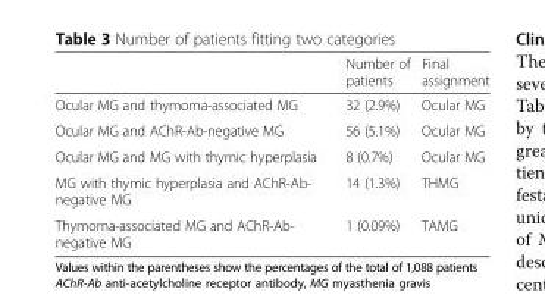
<table><thead><tr><td></td><td>Number of patients</td><td>Final assignment</td></tr></thead><tbody><tr><td>Ocular MG and thymoma-associated MG</td><td>32 (2.9%)</td><td>Ocular MG</td></tr><tr><td>Ocular MG and AChR-Ab-negative MG</td><td>56 (5.1%)</td><td>Ocular MG</td></tr><tr><td>Ocular MG and MG with thymic hyperplasia</td><td>8 (0.7%)</td><td>Ocular MG</td></tr><tr><td>MG with thymic hyperplasia and AChR-Ab- negative MG</td><td>14 (1.3%)</td><td>THMG</td></tr><tr><td>Thymoma-associated MG and AChR-Ab- negative MG</td><td>1 (0.09%)</td><td>TAMG</td></tr></tbody></table>